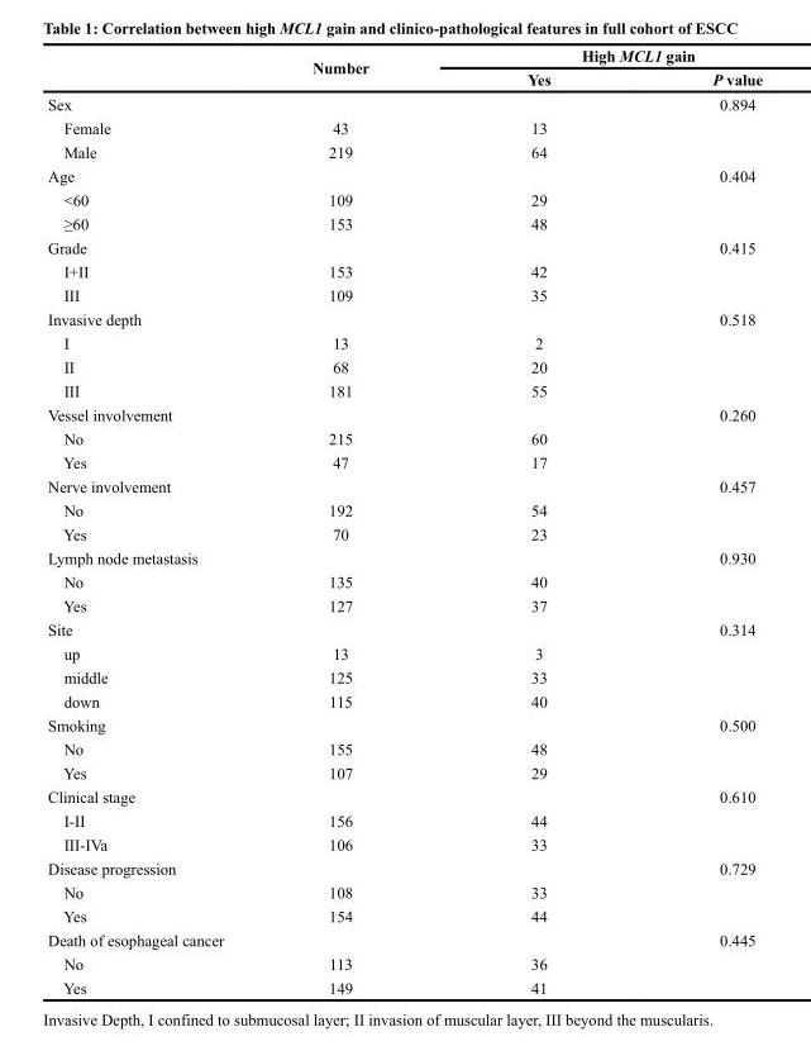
<table><thead><tr><td rowspan="2"></td><td rowspan="2">Number</td><td colspan="2">High MCL1 gain</td></tr><tr><td>Yes</td><td>P value</td></tr></thead><tbody><tr><td>Sex</td><td></td><td></td><td>0.894</td></tr><tr><td>Female</td><td>43</td><td>13</td><td></td></tr><tr><td>Male</td><td>219</td><td>64</td><td></td></tr><tr><td>Age</td><td></td><td></td><td>0.404</td></tr><tr><td>&lt;60</td><td>109</td><td>29</td><td></td></tr><tr><td>≥60</td><td>153</td><td>48</td><td></td></tr><tr><td>Grade</td><td></td><td></td><td>0.415</td></tr><tr><td>I+II</td><td>153</td><td>42</td><td></td></tr><tr><td>III</td><td>109</td><td>35</td><td></td></tr><tr><td>Invasive depth</td><td></td><td></td><td>0.518</td></tr><tr><td>I</td><td>13</td><td>2</td><td></td></tr><tr><td>II</td><td>68</td><td>20</td><td></td></tr><tr><td>III</td><td>181</td><td>55</td><td></td></tr><tr><td>Vessel involvement</td><td></td><td></td><td>0.260</td></tr><tr><td>No</td><td>215</td><td>60</td><td></td></tr><tr><td>Yes</td><td>47</td><td>17</td><td></td></tr><tr><td>Nerve involvement</td><td></td><td></td><td>0.457</td></tr><tr><td>No</td><td>192</td><td>54</td><td></td></tr><tr><td>Yes</td><td>70</td><td>23</td><td></td></tr><tr><td>Lymph node metastasis</td><td></td><td></td><td>0.930</td></tr><tr><td>No</td><td>135</td><td>40</td><td></td></tr><tr><td>Yes</td><td>127</td><td>37</td><td></td></tr><tr><td>Site</td><td></td><td></td><td>0.314</td></tr><tr><td>up</td><td>13</td><td>3</td><td></td></tr><tr><td>middle</td><td>125</td><td>33</td><td></td></tr><tr><td>down</td><td>115</td><td>40</td><td></td></tr><tr><td>Smoking</td><td></td><td></td><td>0.500</td></tr><tr><td>No</td><td>155</td><td>48</td><td></td></tr><tr><td>Yes</td><td>107</td><td>29</td><td></td></tr><tr><td>Clinical stage</td><td></td><td></td><td>0.610</td></tr><tr><td>I-II</td><td>156</td><td>44</td><td></td></tr><tr><td>III-IVa</td><td>106</td><td>33</td><td></td></tr><tr><td>Disease progression</td><td></td><td></td><td>0.729</td></tr><tr><td>No</td><td>108</td><td>33</td><td></td></tr><tr><td>Yes</td><td>154</td><td>44</td><td></td></tr><tr><td>Death of esophageal cancer</td><td></td><td></td><td>0.445</td></tr><tr><td>No</td><td>113</td><td>36</td><td></td></tr><tr><td>Yes</td><td>149</td><td>41</td><td></td></tr></tbody></table>